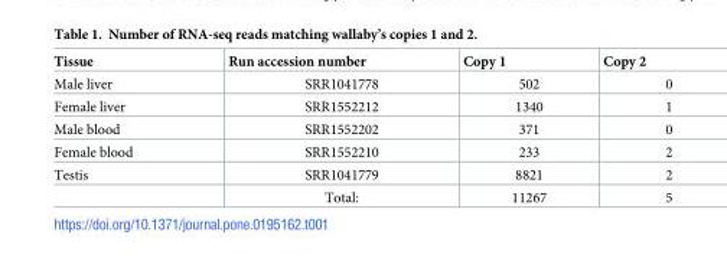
<table><thead><tr><td>Tissue</td><td>Run accession number</td><td>Copy 1</td><td>Copy 2</td></tr></thead><tbody><tr><td>Male liver</td><td>SRR1041778</td><td>502</td><td>0</td></tr><tr><td>Female liver</td><td>SRR1552212</td><td>1340</td><td>1</td></tr><tr><td>Male blood</td><td>SRR1552202</td><td>371</td><td>0</td></tr><tr><td>Female blood</td><td>SRR1552210</td><td>233</td><td>2</td></tr><tr><td rowspan="2">Testis</td><td>SRR1041779</td><td>8821</td><td>2</td></tr><tr><td>Total:</td><td>11267</td><td>5</td></tr></tbody></table>